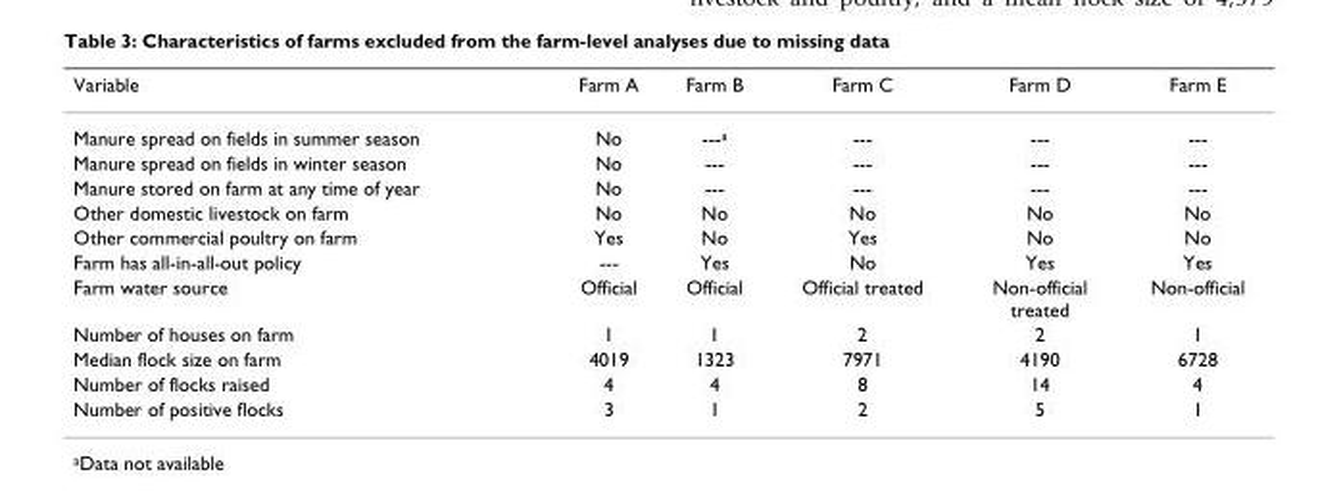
<table><thead><tr><td>Variable</td><td>Farm A</td><td>Farm B</td><td>Farm C</td><td>Farm D</td><td>Farm E</td></tr></thead><tbody><tr><td>Manure spread on fields in summer season</td><td>No</td><td>---<sup>a</sup></td><td>---</td><td>---</td><td>---</td></tr><tr><td>Manure spread on fields in winter season</td><td>No</td><td>---</td><td>---</td><td>---</td><td>---</td></tr><tr><td>Manure stored on farm at any time of year</td><td>No</td><td>---</td><td>---</td><td>---</td><td>---</td></tr><tr><td>Other domestic livestock on farm</td><td>No</td><td>No</td><td>No</td><td>No</td><td>No</td></tr><tr><td>Other commercial poultry on farm</td><td>Yes</td><td>No</td><td>Yes</td><td>No</td><td>No</td></tr><tr><td>Farm has all-in-all-out policy</td><td>---</td><td>Yes</td><td>No</td><td>Yes</td><td>Yes</td></tr><tr><td>Farm water source</td><td>Official</td><td>Official</td><td>Official treated</td><td>Non-official treated</td><td>Non-official</td></tr><tr><td>Number of houses on farm</td><td>1</td><td>1</td><td>2</td><td>2</td><td>1</td></tr><tr><td>Median flock size on farm</td><td>4019</td><td>1323</td><td>7971</td><td>4190</td><td>6728</td></tr><tr><td>Number of flocks raised</td><td>4</td><td>4</td><td>8</td><td>14</td><td>4</td></tr><tr><td>Number of positive flocks</td><td>3</td><td>1</td><td>2</td><td>5</td><td>1</td></tr></tbody></table>